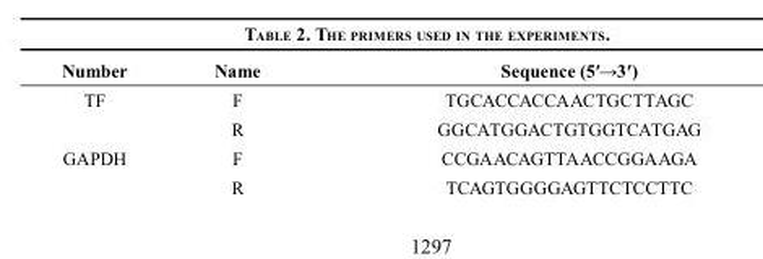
<table><thead><tr><td>Number</td><td>Name</td><td>Sequence (5′→3′)</td></tr></thead><tbody><tr><td rowspan="2">TF</td><td>F</td><td>TGCACCACCAACTGCTTAGC</td></tr><tr><td>R</td><td>GGCATGGACTGTGGTCATGAG</td></tr><tr><td rowspan="2">GAPDH</td><td>F</td><td>CCGAACAGTTAACCGGAAGA</td></tr><tr><td>R</td><td>TCAGTGGGGAGTTCTCCTTC</td></tr></tbody></table>